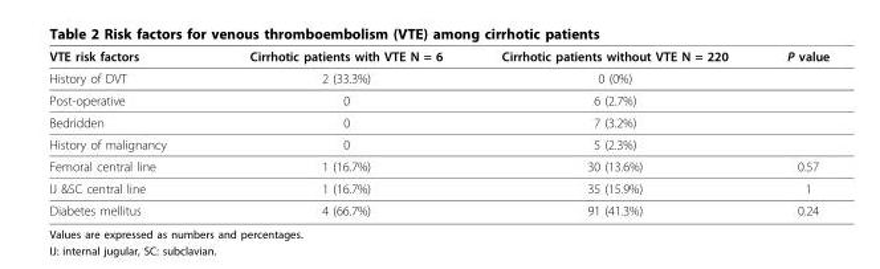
<table><thead><tr><td>VTE risk factors</td><td>Cirrhotic patients with VTE N = 6</td><td>Cirrhotic patients without VTE N = 220</td><td>P value</td></tr></thead><tbody><tr><td>History of DVT</td><td>2 (33.3%)</td><td>0 (0%)</td><td></td></tr><tr><td>Post-operative</td><td>0</td><td>6 (2.7%)</td><td></td></tr><tr><td>Bedridden</td><td>0</td><td>7 (3.2%)</td><td></td></tr><tr><td>History of malignancy</td><td>0</td><td>5 (2.3%)</td><td></td></tr><tr><td>Femoral central line</td><td>1 (16.7%)</td><td>30 (13.6%)</td><td>0.57</td></tr><tr><td>IJ &amp;SC central line</td><td>1 (16.7%)</td><td>35 (15.9%)</td><td>1</td></tr><tr><td>Diabetes mellitus</td><td>4 (66.7%)</td><td>91 (41.3%)</td><td>0.24</td></tr></tbody></table>